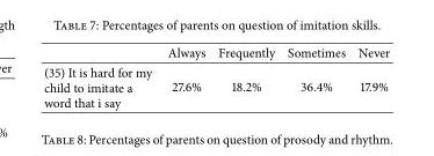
<table><thead><tr><td></td><td>Always</td><td>Frequently</td><td>Sometimes</td><td>Never</td></tr></thead><tbody><tr><td>(35) It is hard for my child to imitate a word that i say</td><td>27.6%</td><td>18.2%</td><td>36.4%</td><td>17.9%</td></tr></tbody></table>